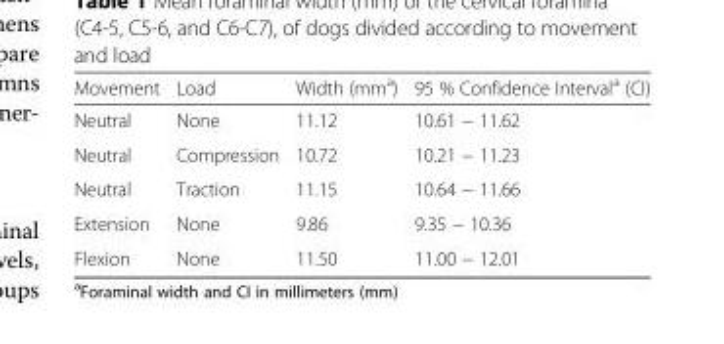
<table><thead><tr><td>Movement</td><td>Load</td><td>Width (mm<sup>a</sup>)</td><td>95 % Confidence Interval<sup>a</sup> (CI)</td></tr></thead><tbody><tr><td>Neutral</td><td>None</td><td>11.12</td><td>10.61 − 11.62</td></tr><tr><td>Neutral</td><td>Compression</td><td>10.72</td><td>10.21 − 11.23</td></tr><tr><td>Neutral</td><td>Traction</td><td>11.15</td><td>10.64 − 11.66</td></tr><tr><td>Extension</td><td>None</td><td>9.86</td><td>9.35 − 10.36</td></tr><tr><td>Flexion</td><td>None</td><td>11.50</td><td>11.00 − 12.01</td></tr></tbody></table>